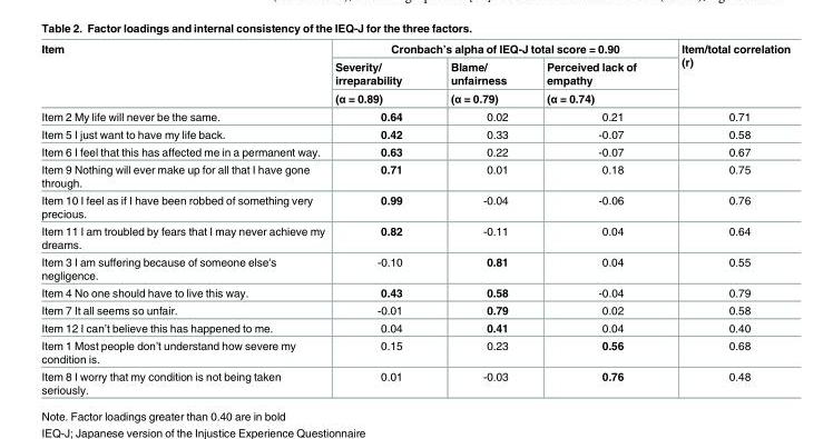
<table><thead><tr><td rowspan="3">Item</td><td colspan="3">Cronbach’s alpha of IEQ-J total score = 0.90</td><td rowspan="3">Item/total correlation (r)</td></tr><tr><td rowspan="2">Severity/ irreparability (α = 0.89)</td><td rowspan="2">Blame/ unfairness (α = 0.79)</td><td rowspan="2">Perceived lack of empathy (α = 0.74)</td></tr><tr></tr></thead><tbody><tr><td>Item 2 My life will never be the same.</td><td>0.64</td><td>0.02</td><td>0.21</td><td>0.71</td></tr><tr><td>Item 5 I just want to have my life back.</td><td>0.42</td><td>0.33</td><td>-0.07</td><td>0.58</td></tr><tr><td>Item 6 I feel that this has affected me in a permanent way.</td><td>0.63</td><td>0.22</td><td>-0.07</td><td>0.67</td></tr><tr><td>Item 9 Nothing will ever make up for all that I have gone through.</td><td>0.71</td><td>0.01</td><td>0.18</td><td>0.75</td></tr><tr><td>Item 10 I feel as if I have been robbed of something very precious.</td><td>0.99</td><td>-0.04</td><td>-0.06</td><td>0.76</td></tr><tr><td>Item 11 I am troubled by fears that I may never achieve my dreams.</td><td>0.82</td><td>-0.11</td><td>0.04</td><td>0.64</td></tr><tr><td>Item 3 I am suffering because of someone else&#x27;s negligence.</td><td>-0.10</td><td>0.81</td><td>0.04</td><td>0.55</td></tr><tr><td>Item 4 No one should have to live this way.</td><td>0.43</td><td>0.58</td><td>-0.04</td><td>0.79</td></tr><tr><td>Item 7 It all seems so unfair.</td><td>-0.01</td><td>0.79</td><td>0.02</td><td>0.58</td></tr><tr><td>Item 12 I can’t believe this has happened to me.</td><td>0.04</td><td>0.41</td><td>0.04</td><td>0.40</td></tr><tr><td>Item 1 Most people don’t understand how severe my condition is.</td><td>0.15</td><td>0.23</td><td>0.56</td><td>0.68</td></tr><tr><td>Item 8 I worry that my condition is not being taken seriously.</td><td>0.01</td><td>-0.03</td><td>0.76</td><td>0.48</td></tr></tbody></table>